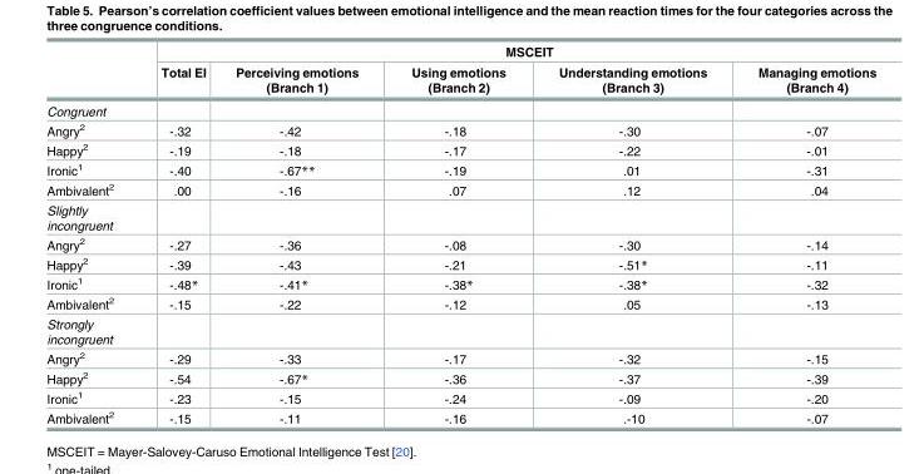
<table><thead><tr><td rowspan="2"></td><td colspan="5">MSCEIT</td></tr><tr><td>Total EI</td><td>Perceiving emotions (Branch 1)</td><td>Using emotions (Branch 2)</td><td>Understanding emotions (Branch 3)</td><td>Managing emotions (Branch 4)</td></tr></thead><tbody><tr><td colspan="6">Congruent</td></tr><tr><td>Angry<sup>2</sup></td><td>-.32</td><td>-.42</td><td>-.18</td><td>-.30</td><td>-.07</td></tr><tr><td>Happy<sup>2</sup></td><td>-.19</td><td>-.18</td><td>-.17</td><td>-.22</td><td>-.01</td></tr><tr><td>Ironic<sup>1</sup></td><td>-.40</td><td>-.67**</td><td>-.19</td><td>.01</td><td>-.31</td></tr><tr><td>Ambivalent<sup>2</sup></td><td>.00</td><td>-.16</td><td>.07</td><td>.12</td><td>.04</td></tr><tr><td colspan="6">Slightly incongruent</td></tr><tr><td>Angry<sup>2</sup></td><td>-.27</td><td>-.36</td><td>-.08</td><td>-.30</td><td>-.14</td></tr><tr><td>Happy<sup>2</sup></td><td>-.39</td><td>-.43</td><td>-.21</td><td>-.51*</td><td>-.11</td></tr><tr><td>Ironic<sup>1</sup></td><td>-.48*</td><td>-.41*</td><td>-.38*</td><td>-.38*</td><td>-.32</td></tr><tr><td>Ambivalent<sup>2</sup></td><td>-.15</td><td>-.22</td><td>-.12</td><td>.05</td><td>-.13</td></tr><tr><td colspan="6">Strongly incongruent</td></tr><tr><td>Angry<sup>2</sup></td><td>-.29</td><td>-.33</td><td>-.17</td><td>-.32</td><td>-.15</td></tr><tr><td>Happy<sup>2</sup></td><td>-.54</td><td>-.67*</td><td>-.36</td><td>-.37</td><td>-.39</td></tr><tr><td>Ironic<sup>1</sup></td><td>-.23</td><td>-.15</td><td>-.24</td><td>-.09</td><td>-.20</td></tr><tr><td>Ambivalent<sup>2</sup></td><td>-.15</td><td>-.11</td><td>-.16</td><td>.-10</td><td>-.07</td></tr></tbody></table>